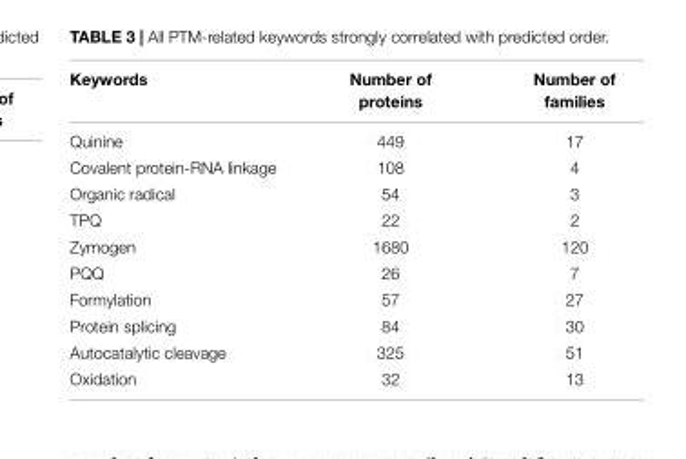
<table><thead><tr><td>Keywords</td><td>Number of proteins</td><td>Number of families</td></tr></thead><tbody><tr><td>Quinine</td><td>449</td><td>17</td></tr><tr><td>Covalent protein-RNA linkage</td><td>108</td><td>4</td></tr><tr><td>Organic radical</td><td>54</td><td>3</td></tr><tr><td>TPQ</td><td>22</td><td>2</td></tr><tr><td>Zymogen</td><td>1680</td><td>120</td></tr><tr><td>PQQ</td><td>26</td><td>7</td></tr><tr><td>Formylation</td><td>57</td><td>27</td></tr><tr><td>Protein splicing</td><td>84</td><td>30</td></tr><tr><td>Autocatalytic cleavage</td><td>325</td><td>51</td></tr><tr><td>Oxidation</td><td>32</td><td>13</td></tr></tbody></table>